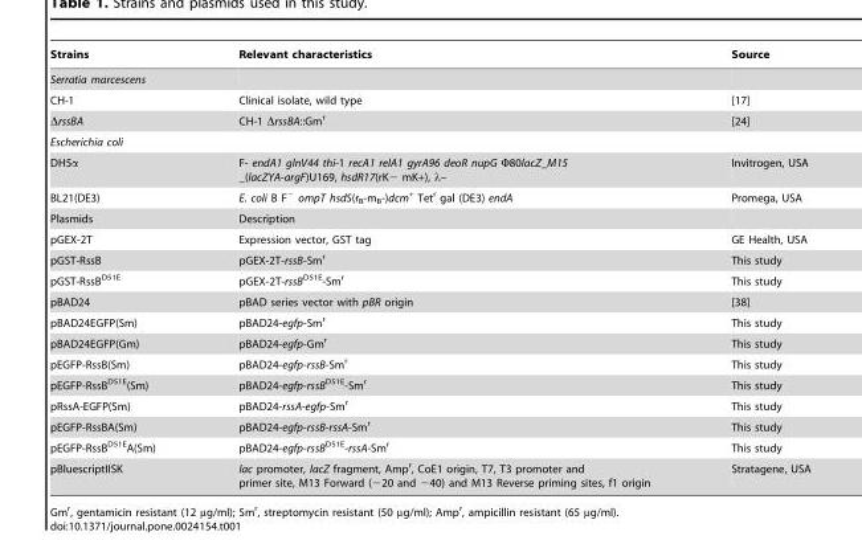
<table><thead><tr><td>Strains</td><td>Relevant characteristics</td><td>Source</td></tr></thead><tbody><tr><td colspan="3">Serratia marcescens</td></tr><tr><td>CH-1</td><td>Clinical isolate, wild type</td><td>[17]</td></tr><tr><td>ΔrssBA</td><td>CH-1 ΔrssBA::Gm<sup>r</sup></td><td>[24]</td></tr><tr><td colspan="3">Escherichia coli</td></tr><tr><td>DH5α</td><td>F- endA1 glnV44 thi-1 recA1 relA1 gyrA96 deoR nupG Φ80lacZ_M15 _(lacZYA-argF)U169, hsdR17(rK− mK+), λ–</td><td>Invitrogen, USA</td></tr><tr><td>BL21(DE3)</td><td>E. coli B F<sup>−</sup> ompT hsdS(r<sub>B</sub>-m<sub>B</sub>-)dcm<sup>+</sup> Tet<sup>r</sup> gal (DE3) endA</td><td>Promega, USA</td></tr><tr><td>Plasmids</td><td>Description</td><td></td></tr><tr><td>pGEX-2T</td><td>Expression vector, GST tag</td><td>GE Health, USA</td></tr><tr><td>pGST-RssB</td><td>pGEX-2T-rssB-Sm<sup>r</sup></td><td>This study</td></tr><tr><td>pGST-RssB<sup>D51E</sup></td><td>pGEX-2T-rssB<sup>D51E</sup>-Sm<sup>r</sup></td><td>This study</td></tr><tr><td>pBAD24</td><td>pBAD series vector with pBR origin</td><td>[38]</td></tr><tr><td>pBAD24EGFP(Sm)</td><td>pBAD24-egfp-Sm<sup>r</sup></td><td>This study</td></tr><tr><td>pBAD24EGFP(Gm)</td><td>pBAD24-egfp-Gm<sup>r</sup></td><td>This study</td></tr><tr><td>pEGFP-RssB(Sm)</td><td>pBAD24-egfp-rssB-Sm<sup>r</sup></td><td>This study</td></tr><tr><td>pEGFP-RssB<sup>D51E</sup>(Sm)</td><td>pBAD24-egfp-rssB<sup>D51E</sup>-Sm<sup>r</sup></td><td>This study</td></tr><tr><td>pRssA-EGFP(Sm)</td><td>pBAD24-rssA-egfp-Sm<sup>r</sup></td><td>This study</td></tr><tr><td>pEGFP-RssBA(Sm)</td><td>pBAD24-egfp-rssB-rssA-Sm<sup>r</sup></td><td>This study</td></tr><tr><td>pEGFP-RssB<sup>D51E</sup>A(Sm)</td><td>pBAD24-egfp-rssB<sup>D51E</sup>-rssA-Sm<sup>r</sup></td><td>This study</td></tr><tr><td>pBluescriptIISK</td><td>lac promoter, lacZ fragment, Amp<sup>r</sup>, CoE1 origin, T7, T3 promoter and primer site, M13 Forward (−20 and −40) and M13 Reverse priming sites, f1 origin</td><td>Stratagene, USA</td></tr></tbody></table>